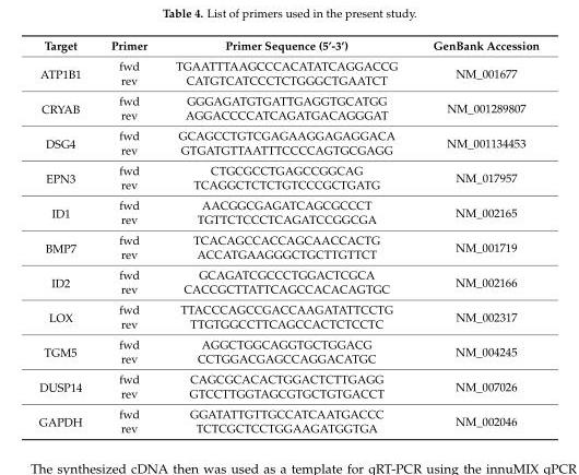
<table><thead><tr><td>Target</td><td>Primer</td><td>Primer Sequence (5’-3’)</td><td>GenBank Accession</td></tr></thead><tbody><tr><td rowspan="2">ATP1B1</td><td>fwd</td><td>TGAATTTAAGCCCACATATCAGGACCG</td><td rowspan="2">NM_001677</td></tr><tr><td>rev</td><td>CATGTCATCCCTCTGGGCTGAATCT</td></tr><tr><td rowspan="2">CRYAB</td><td>fwd</td><td>GGGAGATGTGATTGAGGTGCATGG</td><td rowspan="2">NM_001289807</td></tr><tr><td>rev</td><td>AGGACCCCATCAGATGACAGGGAT</td></tr><tr><td rowspan="2">DSG4</td><td>fwd</td><td>GCAGCCTGTCGAGAAGGAGAGGACA</td><td rowspan="2">NM_001134453</td></tr><tr><td>rev</td><td>GTGATGTTAATTTCCCCAGTGCGAGG</td></tr><tr><td rowspan="2">EPN3</td><td>fwd</td><td>CTGCGCCTGAGCCGGCAG</td><td rowspan="2">NM_017957</td></tr><tr><td>rev</td><td>TCAGGCTCTCTGTCCCGCTGATG</td></tr><tr><td rowspan="2">ID1</td><td>fwd</td><td>AACGGCGAGATCAGCGCCCT</td><td rowspan="2">NM_002165</td></tr><tr><td>rev</td><td>TGTTCTCCCTCAGATCCGGCGA</td></tr><tr><td rowspan="2">BMP7</td><td>fwd</td><td>TCACAGCCACCAGCAACCACTG</td><td rowspan="2">NM_001719</td></tr><tr><td>rev</td><td>ACCATGAAGGGCTGCTTGTTCT</td></tr><tr><td rowspan="2">ID2</td><td>fwd</td><td>GCAGATCGCCCTGGACTCGCA</td><td rowspan="2">NM_002166</td></tr><tr><td>rev</td><td>CACCGCTTATTCAGCCACACAGTGC</td></tr><tr><td rowspan="2">LOX</td><td>fwd</td><td>TTACCCAGCCGACCAAGATATTCCTG</td><td rowspan="2">NM_002317</td></tr><tr><td>rev</td><td>TTGTGGCCTTCAGCCACTCTCCTC</td></tr><tr><td rowspan="2">TGM5</td><td>fwd</td><td>AGGCTGGCAGGTGCTGGACG</td><td rowspan="2">NM_004245</td></tr><tr><td>rev</td><td>CCTGGACGAGCCAGGACATGC</td></tr><tr><td rowspan="2">DUSP14</td><td>fwd</td><td>CAGCGCACACTGGACTCTTGAGG</td><td rowspan="2">NM_007026</td></tr><tr><td>rev</td><td>GTCCTTGGTAGCGTGCTGTGACCT</td></tr><tr><td rowspan="2">GAPDH</td><td>fwd</td><td>GGATATTGTTGCCATCAATGACCC</td><td rowspan="2">NM_002046</td></tr><tr><td>rev</td><td>TCTCGCTCCTGGAAGATGGTGA</td></tr></tbody></table>